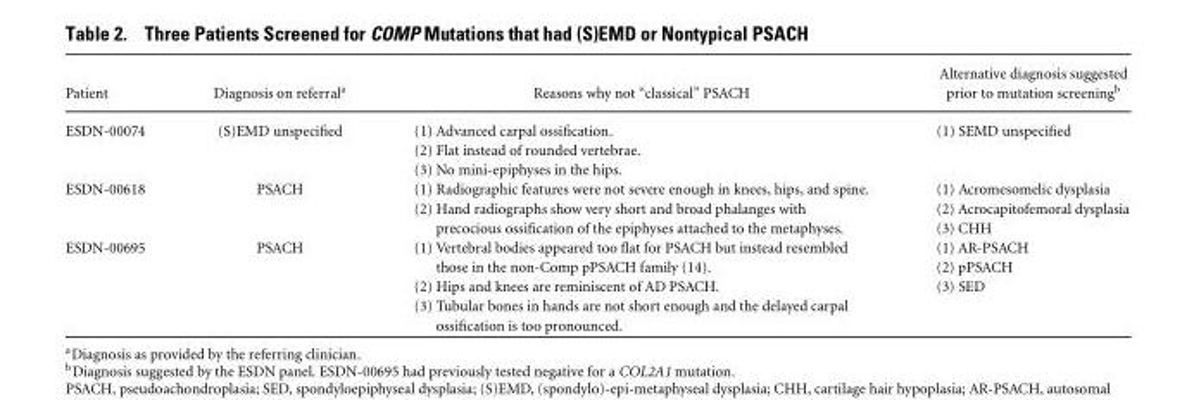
<table><thead><tr><td>Patient</td><td>Diagnosis on referral<sup>a</sup></td><td>Reasons why not “classical” PSACH</td><td>Alternative diagnosis suggested prior to mutation screening<sup>b</sup></td></tr></thead><tbody><tr><td rowspan="3">ESDN-00074</td><td>(S)EMD unspecified</td><td>(1) Advanced carpal ossification.</td><td>(1) SEMD unspecified</td></tr><tr><td></td><td>(2) Flat instead of rounded vertebrae.</td><td></td></tr><tr><td></td><td>(3) No mini-epiphyses in the hips.</td><td></td></tr><tr><td rowspan="2">ESDN-00618</td><td>PSACH</td><td>(1) Radiographic features were not severe enough in knees, hips, and spine.</td><td>(1) Acromesomelic dysplasia</td></tr><tr><td></td><td>(2) Hand radiographs show very short and broad phalanges with precocious ossification of the epiphyses attached to the metaphyses.</td><td>(2) Acrocapitofemoral dysplasia (3) CHH</td></tr><tr><td rowspan="3">ESDN-00695</td><td>PSACH</td><td>(1) Vertebral bodies appeared too flat for PSACH but instead resembled those in the non-Comp pPSACH family (14).</td><td>(1) AR-PSACH (2) pPSACH</td></tr><tr><td></td><td>(2) Hips and knees are reminiscent of AD PSACH.</td><td>(3) SED</td></tr><tr><td></td><td>(3) Tubular bones in hands are not short enough and the delayed carpal ossification is too pronounced.</td><td></td></tr></tbody></table>